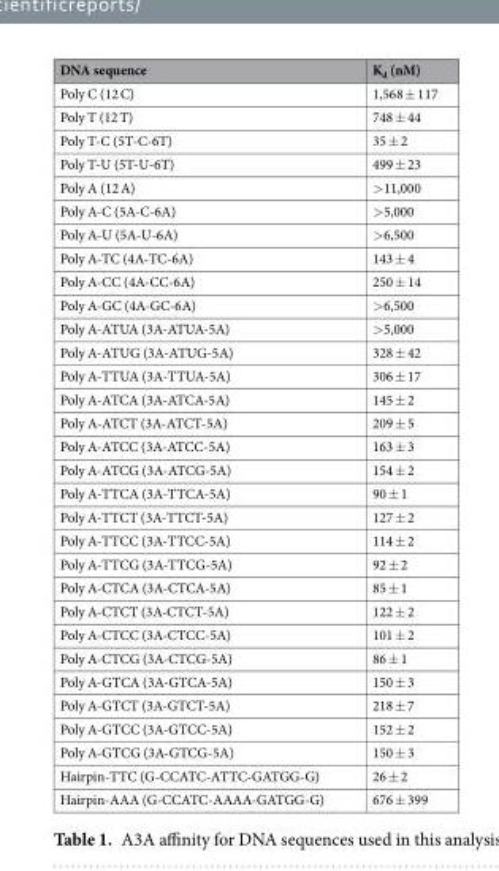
<table><thead><tr><td>DNA sequence</td><td>K<sub>d</sub> (nM)</td></tr></thead><tbody><tr><td>Poly C (12 C)</td><td>1,568 ± 117</td></tr><tr><td>Poly T (12 T)</td><td>748 ± 44</td></tr><tr><td>Poly T-C (5T-C-6T)</td><td>35 ± 2</td></tr><tr><td>Poly T-U (5T-U-6T)</td><td>499 ± 23</td></tr><tr><td>Poly A (12 A)</td><td>&gt;11,000</td></tr><tr><td>Poly A-C (5A-C-6A)</td><td>&gt;5,000</td></tr><tr><td>Poly A-U (5A-U-6A)</td><td>&gt;6,500</td></tr><tr><td>Poly A-TC (4A-TC-6A)</td><td>143 ± 4</td></tr><tr><td>Poly A-CC (4A-CC-6A)</td><td>250 ± 14</td></tr><tr><td>Poly A-GC (4A-GC-6A)</td><td>&gt;6,500</td></tr><tr><td>Poly A-ATUA (3A-ATUA-5A)</td><td>&gt;5,000</td></tr><tr><td>Poly A-ATUG (3A-ATUG-5A)</td><td>328 ± 42</td></tr><tr><td>Poly A-TTUA (3A-TTUA-5A)</td><td>306 ± 17</td></tr><tr><td>Poly A-ATCA (3A-ATCA-5A)</td><td>145 ± 2</td></tr><tr><td>Poly A-ATCT (3A-ATCT-5A)</td><td>209 ± 5</td></tr><tr><td>Poly A-ATCC (3A-ATCC-5A)</td><td>163 ± 3</td></tr><tr><td>Poly A-ATCG (3A-ATCG-5A)</td><td>154 ± 2</td></tr><tr><td>Poly A-TTCA (3A-TTCA-5A)</td><td>90 ± 1</td></tr><tr><td>Poly A-TTCT (3A-TTCT-5A)</td><td>127 ± 2</td></tr><tr><td>Poly A-TTCC (3A-TTCC-5A)</td><td>114 ± 2</td></tr><tr><td>Poly A-TTCG (3A-TTCG-5A)</td><td>92 ± 2</td></tr><tr><td>Poly A-CTCA (3A-CTCA-5A)</td><td>85 ± 1</td></tr><tr><td>Poly A-CTCT (3A-CTCT-5A)</td><td>122 ± 2</td></tr><tr><td>Poly A-CTCC (3A-CTCC-5A)</td><td>101 ± 2</td></tr><tr><td>Poly A-CTCG (3A-CTCG-5A)</td><td>86 ± 1</td></tr><tr><td>Poly A-GTCA (3A-GTCA-5A)</td><td>150 ± 3</td></tr><tr><td>Poly A-GTCT (3A-GTCT-5A)</td><td>218 ± 7</td></tr><tr><td>Poly A-GTCC (3A-GTCC-5A)</td><td>152 ± 2</td></tr><tr><td>Poly A-GTCG (3A-GTCG-5A)</td><td>150 ± 3</td></tr><tr><td>Hairpin-TTC (G-CCATC-ATTC-GATGG-G)</td><td>26 ± 2</td></tr><tr><td>Hairpin-AAA (G-CCATC-AAAA-GATGG-G)</td><td>676 ± 399</td></tr></tbody></table>